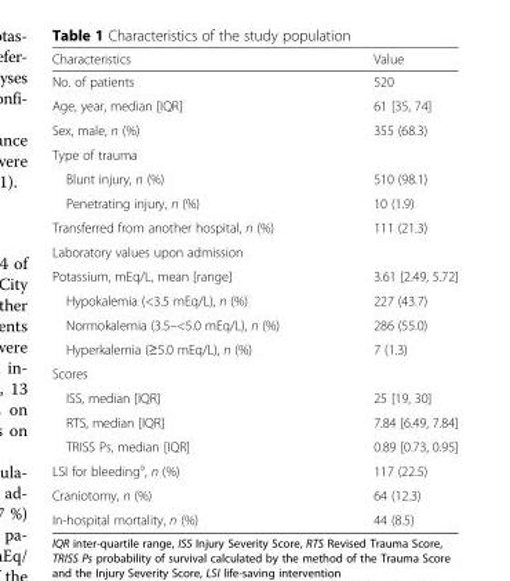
<table><thead><tr><td>Characteristics</td><td>Value</td></tr></thead><tbody><tr><td>No. of patients</td><td>520</td></tr><tr><td>Age, year, median [IQR]</td><td>61 [35, 74]</td></tr><tr><td>Sex, male, n (%)</td><td>355 (68.3)</td></tr><tr><td colspan="2">Type of trauma</td></tr><tr><td>Blunt injury, n (%)</td><td>510 (98.1)</td></tr><tr><td>Penetrating injury, n (%)</td><td>10 (1.9)</td></tr><tr><td>Transferred from another hospital, n (%)</td><td>111 (21.3)</td></tr><tr><td colspan="2">Laboratory values upon admission</td></tr><tr><td>Potassium, mEq/L, mean [range]</td><td>3.61 [2.49, 5.72]</td></tr><tr><td>Hypokalemia (&lt;3.5 mEq/L), n (%)</td><td>227 (43.7)</td></tr><tr><td>Normokalemia (3.5–&lt;5.0 mEq/L), n (%)</td><td>286 (55.0)</td></tr><tr><td>Hyperkalemia (≥5.0 mEq/L), n (%)</td><td>7 (1.3)</td></tr><tr><td colspan="2">Scores</td></tr><tr><td>ISS, median [IQR]</td><td>25 [19, 30]</td></tr><tr><td>RTS, median [IQR]</td><td>7.84 [6.49, 7.84]</td></tr><tr><td>TRISS Ps, median [IQR]</td><td>0.89 [0.73, 0.95]</td></tr><tr><td>LSI for bleeding<sup>a</sup>, n (%)</td><td>117 (22.5)</td></tr><tr><td>Craniotomy, n (%)</td><td>64 (12.3)</td></tr><tr><td>In-hospital mortality, n (%)</td><td>44 (8.5)</td></tr></tbody></table>